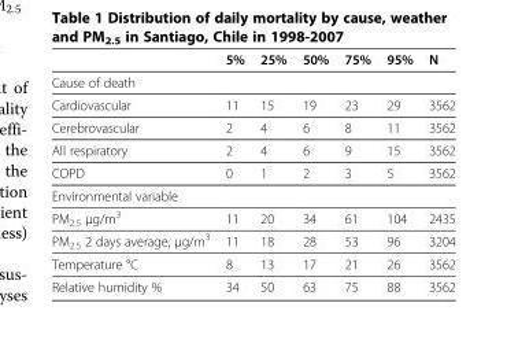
<table><thead><tr><td></td><td>5%</td><td>25%</td><td>50%</td><td>75%</td><td>95%</td><td>N</td></tr></thead><tbody><tr><td colspan="7">Cause of death</td></tr><tr><td>Cardiovascular</td><td>11</td><td>15</td><td>19</td><td>23</td><td>29</td><td>3562</td></tr><tr><td>Cerebrovascular</td><td>2</td><td>4</td><td>6</td><td>8</td><td>11</td><td>3562</td></tr><tr><td>All respiratory</td><td>2</td><td>4</td><td>6</td><td>9</td><td>15</td><td>3562</td></tr><tr><td>COPD</td><td>0</td><td>1</td><td>2</td><td>3</td><td>5</td><td>3562</td></tr><tr><td colspan="7">Environmental variable</td></tr><tr><td>PM<sub>2.5</sub> μg/m<sup>3</sup></td><td>11</td><td>20</td><td>34</td><td>61</td><td>104</td><td>2435</td></tr><tr><td>PM<sub>2.5</sub> 2 days average, μg/m<sup>3</sup></td><td>11</td><td>18</td><td>28</td><td>53</td><td>96</td><td>3204</td></tr><tr><td>Temperature °C</td><td>8</td><td>13</td><td>17</td><td>21</td><td>26</td><td>3562</td></tr><tr><td>Relative humidity %</td><td>34</td><td>50</td><td>63</td><td>75</td><td>88</td><td>3562</td></tr></tbody></table>